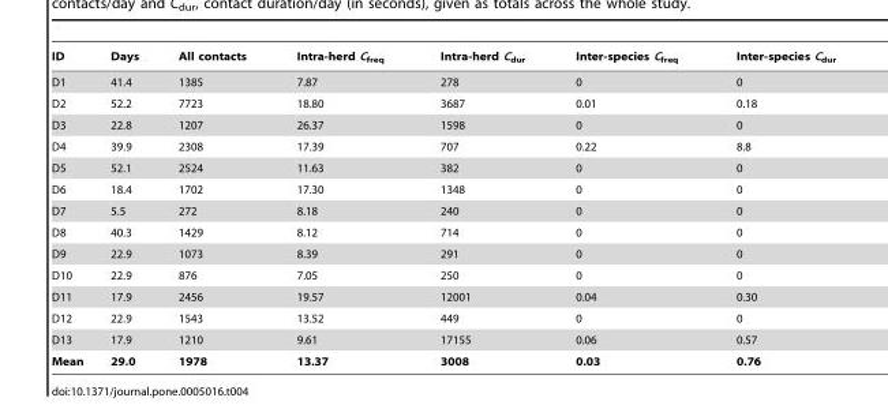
<table><thead><tr><td>ID</td><td>Days</td><td>All contacts</td><td>Intra-herd C<sub>freq</sub></td><td>Intra-herd C<sub>dur</sub></td><td>Inter-species C<sub>freq</sub></td><td>Inter-species C<sub>dur</sub></td></tr></thead><tbody><tr><td>D1</td><td>41.4</td><td>1385</td><td>7.87</td><td>278</td><td>0</td><td>0</td></tr><tr><td>D2</td><td>52.2</td><td>7723</td><td>18.80</td><td>3687</td><td>0.01</td><td>0.18</td></tr><tr><td>D3</td><td>22.8</td><td>1207</td><td>26.37</td><td>1598</td><td>0</td><td>0</td></tr><tr><td>D4</td><td>39.9</td><td>2308</td><td>17.39</td><td>707</td><td>0.22</td><td>8.8</td></tr><tr><td>D5</td><td>52.1</td><td>2524</td><td>11.63</td><td>382</td><td>0</td><td>0</td></tr><tr><td>D6</td><td>18.4</td><td>1702</td><td>17.30</td><td>1348</td><td>0</td><td>0</td></tr><tr><td>D7</td><td>5.5</td><td>272</td><td>8.18</td><td>240</td><td>0</td><td>0</td></tr><tr><td>D8</td><td>40.3</td><td>1429</td><td>8.12</td><td>714</td><td>0</td><td>0</td></tr><tr><td>D9</td><td>22.9</td><td>1073</td><td>8.39</td><td>291</td><td>0</td><td>0</td></tr><tr><td>D10</td><td>22.9</td><td>876</td><td>7.05</td><td>250</td><td>0</td><td>0</td></tr><tr><td>D11</td><td>17.9</td><td>2456</td><td>19.57</td><td>12001</td><td>0.04</td><td>0.30</td></tr><tr><td>D12</td><td>22.9</td><td>1543</td><td>13.52</td><td>449</td><td>0</td><td>0</td></tr><tr><td>D13</td><td>17.9</td><td>1210</td><td>9.61</td><td>17155</td><td>0.06</td><td>0.57</td></tr><tr><td>Mean</td><td>29.0</td><td>1978</td><td>13.37</td><td>3008</td><td>0.03</td><td>0.76</td></tr></tbody></table>